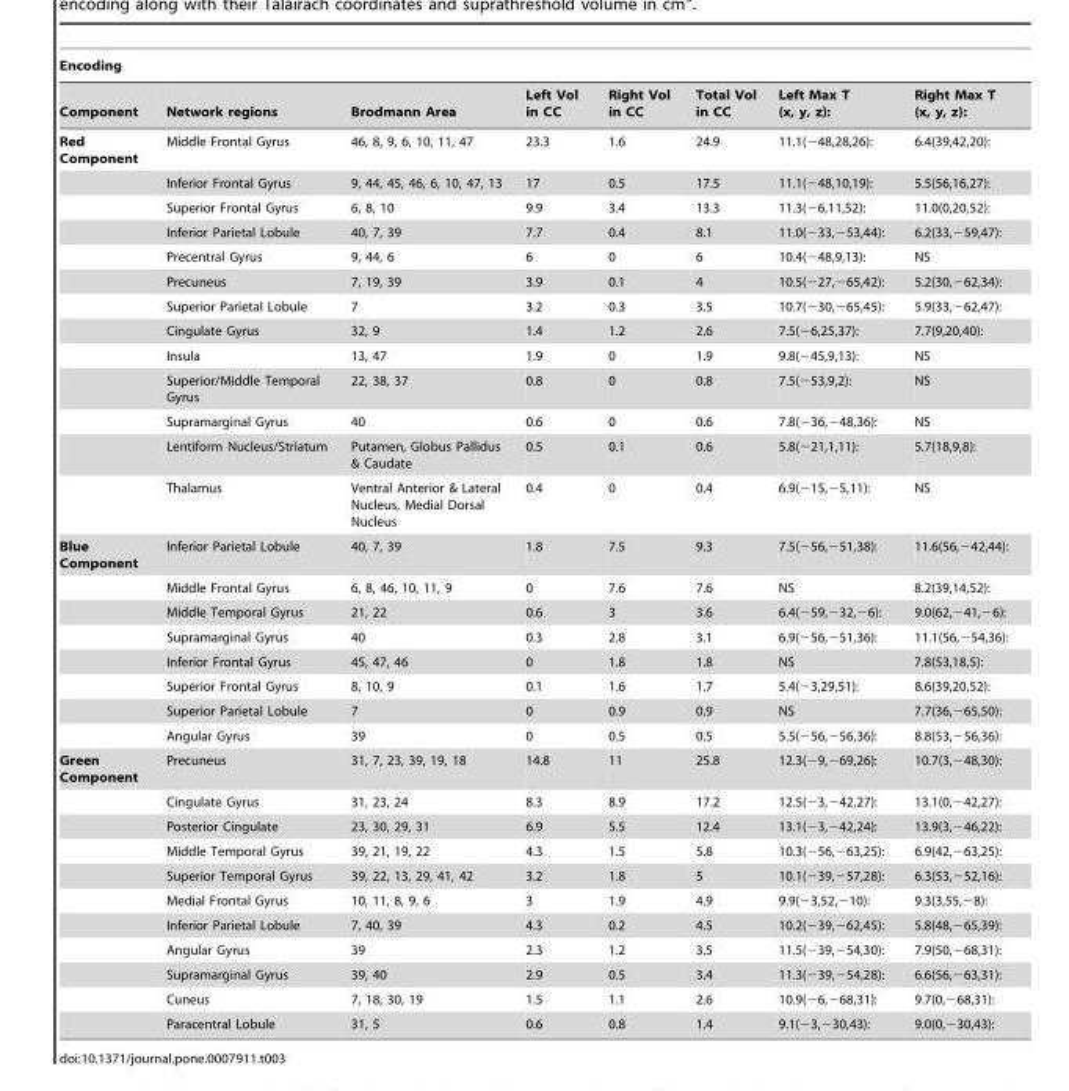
<table><thead><tr><td colspan="8">Encoding</td></tr><tr><td>Component</td><td>Network regions</td><td>Brodmann Area</td><td>Left Vol in CC</td><td>Right Vol in CC</td><td>Total Vol in CC</td><td>Left Max T (x, y, z):</td><td>Right Max T (x, y, z):</td></tr></thead><tbody><tr><td rowspan="13">Red Component</td><td>Middle Frontal Gyrus</td><td>46, 8, 9, 6, 10, 11, 47</td><td>23.3</td><td>1.6</td><td>24.9</td><td>11.1(−48,28,26):</td><td>6.4(39,42,20):</td></tr><tr><td>Inferior Frontal Gyrus</td><td>9, 44, 45, 46, 6, 10, 47, 13</td><td>17</td><td>0.5</td><td>17.5</td><td>11.1(−48,10,19):</td><td>5.5(56,16,27):</td></tr><tr><td>Superior Frontal Gyrus</td><td>6, 8, 10</td><td>9.9</td><td>3.4</td><td>13.3</td><td>11.3(−6,11,52):</td><td>11.0(0,20,52):</td></tr><tr><td>Inferior Parietal Lobule</td><td>40, 7, 39</td><td>7.7</td><td>0.4</td><td>8.1</td><td>11.0(−33,−53,44):</td><td>6.2(33,−59,47):</td></tr><tr><td>Precentral Gyrus</td><td>9, 44, 6</td><td>6</td><td>0</td><td>6</td><td>10.4(−48,9,13):</td><td>NS</td></tr><tr><td>Precuneus</td><td>7, 19, 39</td><td>3.9</td><td>0.1</td><td>4</td><td>10.5(−27,−65,42):</td><td>5.2(30,−62,34):</td></tr><tr><td>Superior Parietal Lobule</td><td>7</td><td>3.2</td><td>0.3</td><td>3.5</td><td>10.7(−30,−65,45):</td><td>5.9(33,−62,47):</td></tr><tr><td>Cingulate Gyrus</td><td>32, 9</td><td>1.4</td><td>1.2</td><td>2.6</td><td>7.5(−6,25,37):</td><td>7.7(9,20,40):</td></tr><tr><td>Insula</td><td>13, 47</td><td>1.9</td><td>0</td><td>1.9</td><td>9.8(−45,9,13):</td><td>NS</td></tr><tr><td>Superior/Middle Temporal Gyrus</td><td>22, 38, 37</td><td>0.8</td><td>0</td><td>0.8</td><td>7.5(−53,9,2):</td><td>NS</td></tr><tr><td>Supramarginal Gyrus</td><td>40</td><td>0.6</td><td>0</td><td>0.6</td><td>7.8(−36,−48,36):</td><td>NS</td></tr><tr><td>Lentiform Nucleus/Striatum</td><td>Putamen, Globus Pallidus &amp; Caudate</td><td>0.5</td><td>0.1</td><td>0.6</td><td>5.8(−21,1,11):</td><td>5.7(18,9,8):</td></tr><tr><td>Thalamus</td><td>Ventral Anterior &amp; Lateral Nucleus, Medial Dorsal Nucleus</td><td>0.4</td><td>0</td><td>0.4</td><td>6.9(−15,−5,11):</td><td>NS</td></tr><tr><td rowspan="8">Blue Component</td><td>Inferior Parietal Lobule</td><td>40, 7, 39</td><td>1.8</td><td>7.5</td><td>9.3</td><td>7.5(−56,−51,38):</td><td>11.6(56,−42,44):</td></tr><tr><td>Middle Frontal Gyrus</td><td>6, 8, 46, 10, 11, 9</td><td>0</td><td>7.6</td><td>7.6</td><td>NS</td><td>8.2(39,14,52):</td></tr><tr><td>Middle Temporal Gyrus</td><td>21, 22</td><td>0.6</td><td>3</td><td>3.6</td><td>6.4(−59,−32,−6):</td><td>9.0(62,−41,−6):</td></tr><tr><td>Supramarginal Gyrus</td><td>40</td><td>0.3</td><td>2.8</td><td>3.1</td><td>6.9(−56,−51,36):</td><td>11.1(56,−54,36):</td></tr><tr><td>Inferior Frontal Gyrus</td><td>45, 47, 46</td><td>0</td><td>1.8</td><td>1.8</td><td>NS</td><td>7.8(53,18,5):</td></tr><tr><td>Superior Frontal Gyrus</td><td>8, 10, 9</td><td>0.1</td><td>1.6</td><td>1.7</td><td>5.4(−3,29,51):</td><td>8.6(39,20,52):</td></tr><tr><td>Superior Parietal Lobule</td><td>7</td><td>0</td><td>0.9</td><td>0.9</td><td>NS</td><td>7.7(36,−65,50):</td></tr><tr><td>Angular Gyrus</td><td>39</td><td>0</td><td>0.5</td><td>0.5</td><td>5.5(−56,−56,36):</td><td>8.8(53,−56,36):</td></tr><tr><td rowspan="11">Green Component</td><td>Precuneus</td><td>31, 7, 23, 39, 19, 18</td><td>14.8</td><td>11</td><td>25.8</td><td>12.3(−9,−69,26):</td><td>10.7(3,−48,30):</td></tr><tr><td>Cingulate Gyrus</td><td>31, 23, 24</td><td>8.3</td><td>8.9</td><td>17.2</td><td>12.5(−3,−42,27):</td><td>13.1(0,−42,27):</td></tr><tr><td>Posterior Cingulate</td><td>23, 30, 29, 31</td><td>6.9</td><td>5.5</td><td>12.4</td><td>13.1(−3,−42,24):</td><td>13.9(3,−46,22):</td></tr><tr><td>Middle Temporal Gyrus</td><td>39, 21, 19, 22</td><td>4.3</td><td>1.5</td><td>5.8</td><td>10.3(−56,−63,25):</td><td>6.9(42,−63,25):</td></tr><tr><td>Superior Temporal Gyrus</td><td>39, 22, 13, 29, 41, 42</td><td>3.2</td><td>1.8</td><td>5</td><td>10.1(−39,−57,28):</td><td>6.3(53,−52,16):</td></tr><tr><td>Medial Frontal Gyrus</td><td>10, 11, 8, 9, 6</td><td>3</td><td>1.9</td><td>4.9</td><td>9.9(−3,52,−10):</td><td>9.3(3,55,−8):</td></tr><tr><td>Inferior Parietal Lobule</td><td>7, 40, 39</td><td>4.3</td><td>0.2</td><td>4.5</td><td>10.2(−39,−62,45):</td><td>5.8(48,−65,39):</td></tr><tr><td>Angular Gyrus</td><td>39</td><td>2.3</td><td>1.2</td><td>3.5</td><td>11.5(−39,−54,30):</td><td>7.9(50,−68,31):</td></tr><tr><td>Supramarginal Gyrus</td><td>39, 40</td><td>2.9</td><td>0.5</td><td>3.4</td><td>11.3(−39,−54,28):</td><td>6.6(56,−63,31):</td></tr><tr><td>Cuneus</td><td>7, 18, 30, 19</td><td>1.5</td><td>1.1</td><td>2.6</td><td>10.9(−6,−68,31):</td><td>9.7(0,−68,31):</td></tr><tr><td>Paracentral Lobule</td><td>31, 5</td><td>0.6</td><td>0.8</td><td>1.4</td><td>9.1(−3,−30,43):</td><td>9.0(0,−30,43):</td></tr></tbody></table>